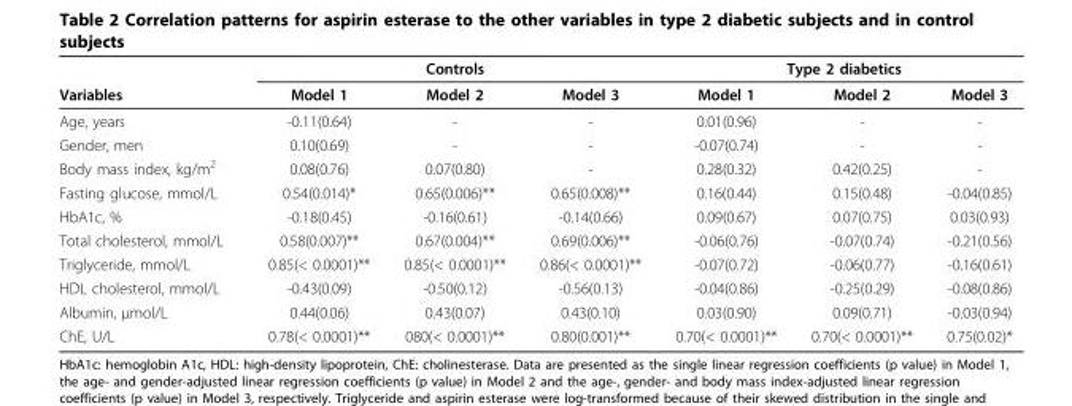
<table><thead><tr><td rowspan="2">Variables</td><td colspan="3">Controls</td><td colspan="3">Type 2 diabetics</td></tr><tr><td>Model 1</td><td>Model 2</td><td>Model 3</td><td>Model 1</td><td>Model 2</td><td>Model 3</td></tr></thead><tbody><tr><td>Age, years</td><td>-0.11(0.64)</td><td>-</td><td>-</td><td>0.01(0.96)</td><td>-</td><td>-</td></tr><tr><td>Gender, men</td><td>0.10(0.69)</td><td>-</td><td>-</td><td>-0.07(0.74)</td><td>-</td><td>-</td></tr><tr><td>Body mass index, kg/m<sup>2</sup></td><td>0.08(0.76)</td><td>0.07(0.80)</td><td>-</td><td>0.28(0.32)</td><td>0.42(0.25)</td><td>-</td></tr><tr><td>Fasting glucose, mmol/L</td><td>0.54(0.014)*</td><td>0.65(0.006)**</td><td>0.65(0.008)**</td><td>0.16(0.44)</td><td>0.15(0.48)</td><td>-0.04(0.85)</td></tr><tr><td>HbA1c, %</td><td>-0.18(0.45)</td><td>-0.16(0.61)</td><td>-0.14(0.66)</td><td>0.09(0.67)</td><td>0.07(0.75)</td><td>0.03(0.93)</td></tr><tr><td>Total cholesterol, mmol/L</td><td>0.58(0.007)**</td><td>0.67(0.004)**</td><td>0.69(0.006)**</td><td>-0.06(0.76)</td><td>-0.07(0.74)</td><td>-0.21(0.56)</td></tr><tr><td>Triglyceride, mmol/L</td><td>0.85(&lt; 0.0001)**</td><td>0.85(&lt; 0.0001)**</td><td>0.86(&lt; 0.0001)**</td><td>-0.07(0.72)</td><td>-0.06(0.77)</td><td>-0.16(0.61)</td></tr><tr><td>HDL cholesterol, mmol/L</td><td>-0.43(0.09)</td><td>-0.50(0.12)</td><td>-0.56(0.13)</td><td>-0.04(0.86)</td><td>-0.25(0.29)</td><td>-0.08(0.86)</td></tr><tr><td>Albumin, μmol/L</td><td>0.44(0.06)</td><td>0.43(0.07)</td><td>0.43(0.10)</td><td>0.03(0.90)</td><td>0.09(0.71)</td><td>-0.03(0.94)</td></tr><tr><td>ChE, U/L</td><td>0.78(&lt; 0.0001)**</td><td>080(&lt; 0.0001)**</td><td>0.80(0.001)**</td><td>0.70(&lt; 0.0001)**</td><td>0.70(&lt; 0.0001)**</td><td>0.75(0.02)*</td></tr></tbody></table>